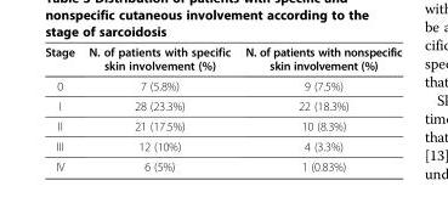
<table><thead><tr><td>Stage</td><td>N. of patients with specific skin involvement (%)</td><td>N. of patients with nonspecific skin involvement (%)</td></tr></thead><tbody><tr><td>0</td><td>7 (5.8%)</td><td>9 (7.5%)</td></tr><tr><td>I</td><td>28 (23.3%)</td><td>22 (18.3%)</td></tr><tr><td>II</td><td>21 (17.5%)</td><td>10 (8.3%)</td></tr><tr><td>III</td><td>12 (10%)</td><td>4 (3.3%)</td></tr><tr><td>IV</td><td>6 (5%)</td><td>1 (0.83%)</td></tr></tbody></table>